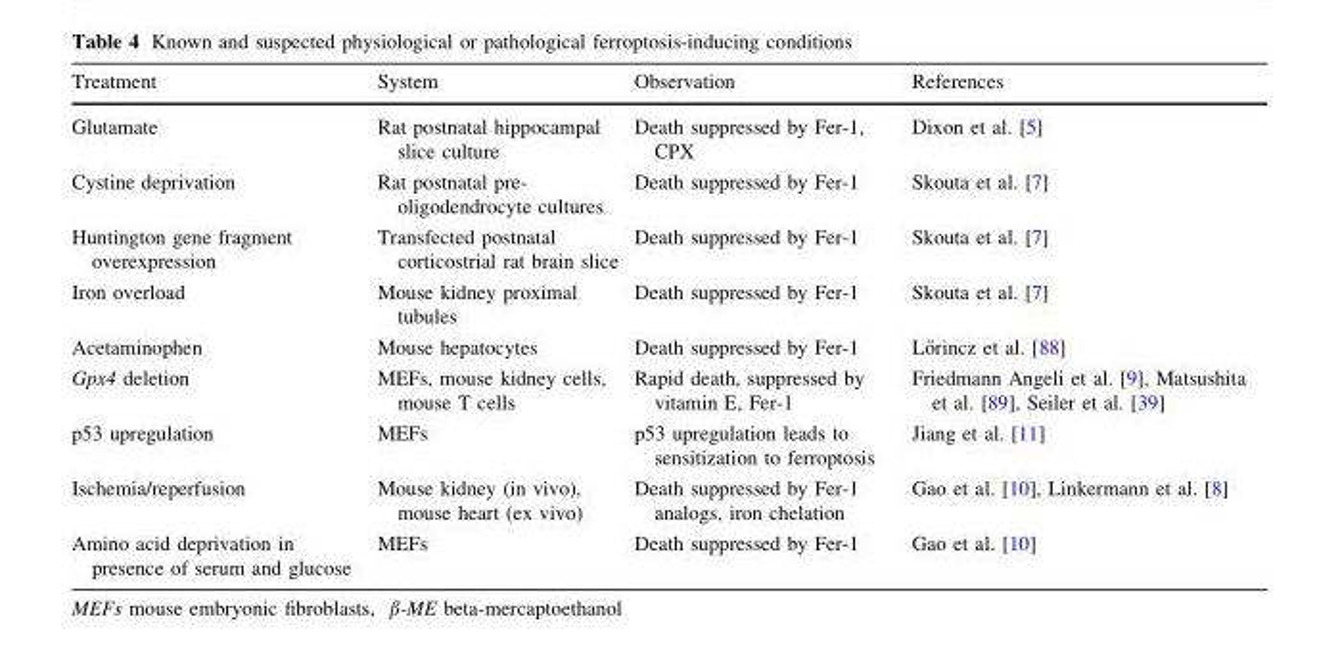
<table><thead><tr><td>Treatment</td><td>System</td><td>Observation</td><td>References</td></tr></thead><tbody><tr><td>Glutamate</td><td>Rat postnatal hippocampal slice culture</td><td>Death suppressed by Fer-1, CPX</td><td>Dixon et al. [5]</td></tr><tr><td>Cystine deprivation</td><td>Rat postnatal pre- oligodendrocyte cultures</td><td>Death suppressed by Fer-1</td><td>Skouta et al. [7]</td></tr><tr><td>Huntington gene fragment overexpression</td><td>Transfected postnatal corticostrial rat brain slice</td><td>Death suppressed by Fer-1</td><td>Skouta et al. [7]</td></tr><tr><td>Iron overload</td><td>Mouse kidney proximal tubules</td><td>Death suppressed by Fer-1</td><td>Skouta et al. [7]</td></tr><tr><td>Acetaminophen</td><td>Mouse hepatocytes</td><td>Death suppressed by Fer-1</td><td>L}orincz et al. [88]</td></tr><tr><td>Gpx4 deletion</td><td>MEFs, mouse kidney cells, mouse T cells</td><td>Rapid death, suppressed by vitamin E, Fer-1</td><td>Friedmann Angeli et al. [9], Matsushita et al. [89], Seiler et al. [39]</td></tr><tr><td>p53 upregulation</td><td>MEFs</td><td>p53 upregulation leads to sensitization to ferroptosis</td><td>Jiang et al. [11]</td></tr><tr><td>Ischemia/reperfusion</td><td>Mouse kidney (in vivo), mouse heart (ex vivo)</td><td>Death suppressed by Fer-1 analogs, iron chelation</td><td>Gao et al. [10], Linkermann et al. [8]</td></tr><tr><td>Amino acid deprivation in presence of serum and glucose</td><td>MEFs</td><td>Death suppressed by Fer-1</td><td>Gao et al. [10]</td></tr></tbody></table>